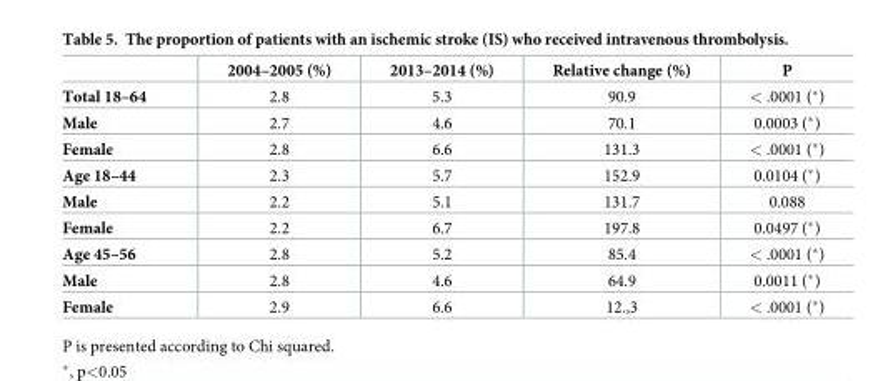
<table><thead><tr><td></td><td>2004–2005 (%)</td><td>2013–2014 (%)</td><td>Relative change (%)</td><td>P</td></tr></thead><tbody><tr><td>Total 18–64</td><td>2.8</td><td>5.3</td><td>90.9</td><td>&lt; .0001 (*)</td></tr><tr><td>Male</td><td>2.7</td><td>4.6</td><td>70.1</td><td>0.0003 (*)</td></tr><tr><td>Female</td><td>2.8</td><td>6.6</td><td>131.3</td><td>&lt; .0001 (*)</td></tr><tr><td>Age 18–44</td><td>2.3</td><td>5.7</td><td>152.9</td><td>0.0104 (*)</td></tr><tr><td>Male</td><td>2.2</td><td>5.1</td><td>131.7</td><td>0.088</td></tr><tr><td>Female</td><td>2.2</td><td>6.7</td><td>197.8</td><td>0.0497 (*)</td></tr><tr><td>Age 45–56</td><td>2.8</td><td>5.2</td><td>85.4</td><td>&lt; .0001 (*)</td></tr><tr><td>Male</td><td>2.8</td><td>4.6</td><td>64.9</td><td>0.0011 (*)</td></tr><tr><td>Female</td><td>2.9</td><td>6.6</td><td>12.,3</td><td>&lt; .0001 (*)</td></tr></tbody></table>